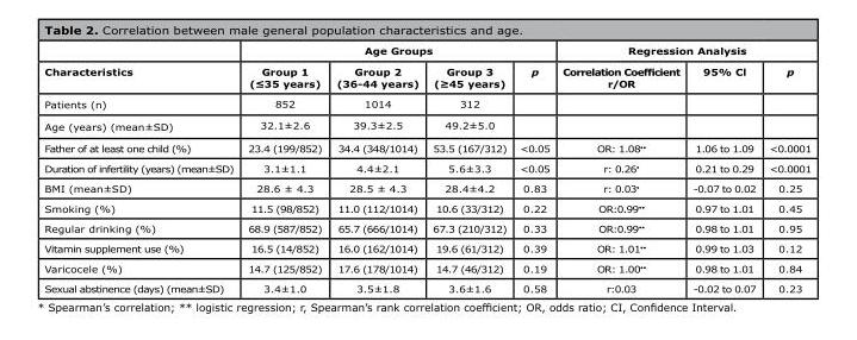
<table><thead><tr><td rowspan="2">Characteristics</td><td colspan="4">Age Groups</td><td colspan="3">Regression Analysis</td></tr><tr><td>Group 1 (≤35 years)</td><td>Group 2 (36-44 years)</td><td>Group 3 (≥45 years)</td><td>p</td><td>Correlation Coefficient r/OR</td><td>95% Cl</td><td>p</td></tr></thead><tbody><tr><td>Patients (n)</td><td>852</td><td>1014</td><td>312</td><td></td><td></td><td></td><td></td></tr><tr><td>Age (years) (mean±SD)</td><td>32.1±2.6</td><td>39.3±2.5</td><td>49.2±5.0</td><td></td><td></td><td></td><td></td></tr><tr><td>Father of at least one child (%)</td><td>23.4 (199/852)</td><td>34.4 (348/1014)</td><td>53.5 (167/312)</td><td>&lt;0.05</td><td>OR: 1.08<sup>••</sup></td><td>1.06 to 1.09</td><td>&lt;0.0001</td></tr><tr><td>Duration of infertility (years) (mean±SD)</td><td>3.1±1.1</td><td>4.4±2.1</td><td>5.6±3.3</td><td>&lt;0.05</td><td>r: 0.26<sup>•</sup></td><td>0.21 to 0.29</td><td>&lt;0.0001</td></tr><tr><td>BMI (mean±SD)</td><td>28.6 ± 4.3</td><td>28.5 ± 4.3</td><td>28.4±4.2</td><td>0.83</td><td>r: 0.03<sup>•</sup></td><td>-0.07 to 0.02</td><td>0.25</td></tr><tr><td>Smoking (%)</td><td>11.5 (98/852)</td><td>11.0 (112/1014)</td><td>10.6 (33/312)</td><td>0.22</td><td>OR:0.99<sup>••</sup></td><td>0.97 to 1.01</td><td>0.45</td></tr><tr><td>Regular drinking (%)</td><td>68.9 (587/852)</td><td>65.7 (666/1014)</td><td>67.3 (210/312)</td><td>0.33</td><td>OR:0.99<sup>••</sup></td><td>0.98 to 1.01</td><td>0.95</td></tr><tr><td>Vitamin supplement use (%)</td><td>16.5 (14/852)</td><td>16.0 (162/1014)</td><td>19.6 (61/312)</td><td>0.39</td><td>OR: 1.01<sup>••</sup></td><td>0.99 to 1.03</td><td>0.12</td></tr><tr><td>Varicocele (%)</td><td>14.7 (125/852)</td><td>17.6 (178/1014)</td><td>14.7 (46/312)</td><td>0.19</td><td>OR: 1.00<sup>••</sup></td><td>0.98 to 1.01</td><td>0.84</td></tr><tr><td>Sexual abstinence (days) (mean±SD)</td><td>3.4±1.0</td><td>3.5±1.8</td><td>3.6±1.6</td><td>0.58</td><td>r:0.03</td><td>-0.02 to 0.07</td><td>0.23</td></tr></tbody></table>